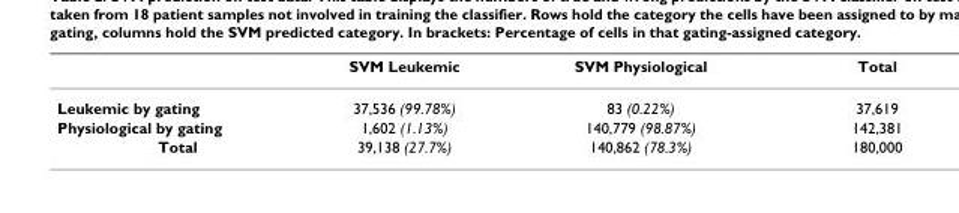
<table><thead><tr><td></td><td>SVM Leukemic</td><td>SVM Physiological</td><td>Total</td></tr></thead><tbody><tr><td>Leukemic by gating</td><td>37,536 (99.78%)</td><td>83 (0.22%)</td><td>37,619</td></tr><tr><td>Physiological by gating</td><td>1,602 (1.13%)</td><td>140,779 (98.87%)</td><td>142,381</td></tr><tr><td>Total</td><td>39,138 (27.7%)</td><td>140,862 (78.3%)</td><td>180,000</td></tr></tbody></table>